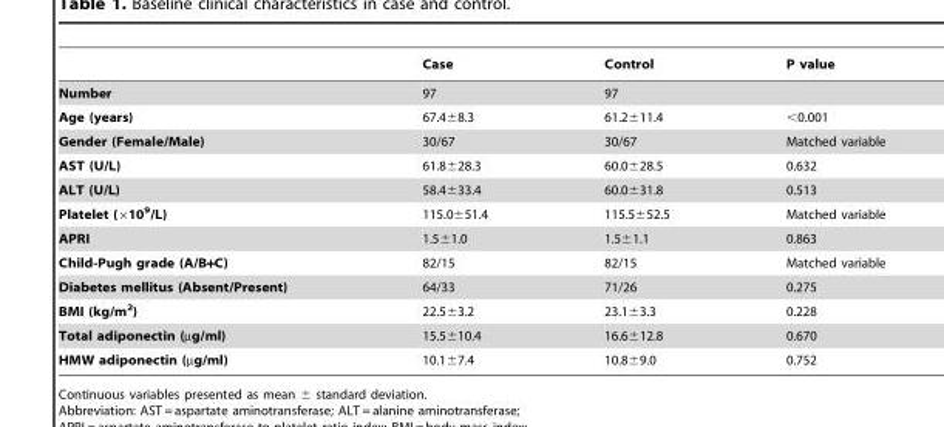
<table><thead><tr><td></td><td>Case</td><td>Control</td><td>P value</td></tr></thead><tbody><tr><td>Number</td><td>97</td><td>97</td><td></td></tr><tr><td>Age (years)</td><td>67.4±8.3</td><td>61.2±11.4</td><td>&lt;0.001</td></tr><tr><td>Gender (Female/Male)</td><td>30/67</td><td>30/67</td><td>Matched variable</td></tr><tr><td>AST (U/L)</td><td>61.8±28.3</td><td>60.0±28.5</td><td>0.632</td></tr><tr><td>ALT (U/L)</td><td>58.4±33.4</td><td>60.0±31.8</td><td>0.513</td></tr><tr><td>Platelet (×10<sup>9</sup>/L)</td><td>115.0±51.4</td><td>115.5±52.5</td><td>Matched variable</td></tr><tr><td>APRI</td><td>1.5±1.0</td><td>1.5±1.1</td><td>0.863</td></tr><tr><td>Child-Pugh grade (A/B+C)</td><td>82/15</td><td>82/15</td><td>Matched variable</td></tr><tr><td>Diabetes mellitus (Absent/Present)</td><td>64/33</td><td>71/26</td><td>0.275</td></tr><tr><td>BMI (kg/m<sup>2</sup>)</td><td>22.5±3.2</td><td>23.1±3.3</td><td>0.228</td></tr><tr><td>Total adiponectin (µg/ml)</td><td>15.5±10.4</td><td>16.6±12.8</td><td>0.670</td></tr><tr><td>HMW adiponectin (µg/ml)</td><td>10.1±7.4</td><td>10.8±9.0</td><td>0.752</td></tr></tbody></table>